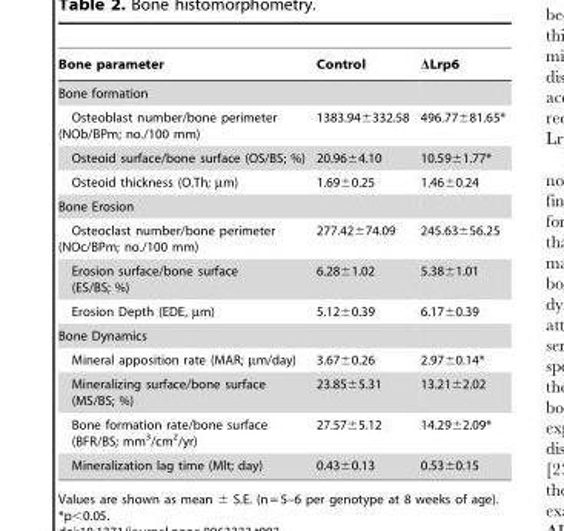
<table><thead><tr><td>Bone parameter</td><td>Control</td><td>ΔLrp6</td></tr></thead><tbody><tr><td colspan="3">Bone formation</td></tr><tr><td>Osteoblast number/bone perimeter (NOb/BPm; no./100 mm)</td><td>1383.94±332.58</td><td>496.77±81.65*</td></tr><tr><td>Osteoid surface/bone surface (OS/BS; %)</td><td>20.96±4.10</td><td>10.59±1.77*</td></tr><tr><td>Osteoid thickness (O.Th; µm)</td><td>1.69±0.25</td><td>1.46±0.24</td></tr><tr><td colspan="3">Bone Erosion</td></tr><tr><td>Osteoclast number/bone perimeter (NOc/BPm; no./100 mm)</td><td>277.42±74.09</td><td>245.63±56.25</td></tr><tr><td>Erosion surface/bone surface (ES/BS; %)</td><td>6.28±1.02</td><td>5.38±1.01</td></tr><tr><td>Erosion Depth (EDE, µm)</td><td>5.12±0.39</td><td>6.17±0.39</td></tr><tr><td colspan="3">Bone Dynamics</td></tr><tr><td>Mineral apposition rate (MAR; µm/day)</td><td>3.67±0.26</td><td>2.97±0.14*</td></tr><tr><td>Mineralizing surface/bone surface (MS/BS; %)</td><td>23.85±5.31</td><td>13.21±2.02</td></tr><tr><td>Bone formation rate/bone surface (BFR/BS; mm<sup>3</sup>/cm<sup>2</sup>/yr)</td><td>27.57±5.12</td><td>14.29±2.09*</td></tr><tr><td>Mineralization lag time (Mlt; day)</td><td>0.43±0.13</td><td>0.53±0.15</td></tr></tbody></table>